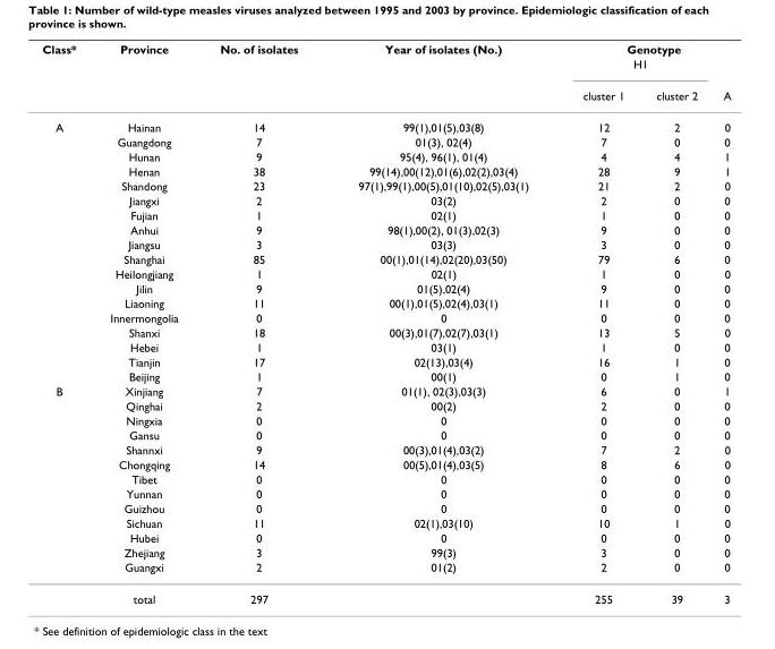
<table><thead><tr><td rowspan="3">Class*</td><td rowspan="3">Province</td><td rowspan="3">No. of isolates</td><td rowspan="3">Year of isolates (No.)</td><td colspan="3">Genotype</td></tr><tr><td colspan="2">H1</td><td rowspan="2">A</td></tr><tr><td>cluster 1</td><td>cluster 2</td></tr></thead><tbody><tr><td rowspan="18">A</td><td>Hainan</td><td>14</td><td>99(1),01(5),03(8)</td><td>12</td><td>2</td><td>0</td></tr><tr><td>Guangdong</td><td>7</td><td>01(3), 02(4)</td><td>7</td><td>0</td><td>0</td></tr><tr><td>Hunan</td><td>9</td><td>95(4), 96(1), 01(4)</td><td>4</td><td>4</td><td>1</td></tr><tr><td>Henan</td><td>38</td><td>99(14),00(12),01(6),02(2),03(4)</td><td>28</td><td>9</td><td>1</td></tr><tr><td>Shandong</td><td>23</td><td>97(1),99(1),00(5),01(10),02(5),03(1)</td><td>21</td><td>2</td><td>0</td></tr><tr><td>Jiangxi</td><td>2</td><td>03(2)</td><td>2</td><td>0</td><td>0</td></tr><tr><td>Fujian</td><td>1</td><td>02(1)</td><td>1</td><td>0</td><td>0</td></tr><tr><td>Anhui</td><td>9</td><td>98(1),00(2), 01(3),02(3)</td><td>9</td><td>0</td><td>0</td></tr><tr><td>Jiangsu</td><td>3</td><td>03(3)</td><td>3</td><td>0</td><td>0</td></tr><tr><td>Shanghai</td><td>85</td><td>00(1),01(14),02(20),03(50)</td><td>79</td><td>6</td><td>0</td></tr><tr><td>Heilongjiang</td><td>1</td><td>02(1)</td><td>1</td><td>0</td><td>0</td></tr><tr><td>Jilin</td><td>9</td><td>01(5),02(4)</td><td>9</td><td>0</td><td>0</td></tr><tr><td>Liaoning</td><td>11</td><td>00(1),01(5),02(4),03(1)</td><td>11</td><td>0</td><td>0</td></tr><tr><td>Innermongolia</td><td>0</td><td>0</td><td>0</td><td>0</td><td>0</td></tr><tr><td>Shanxi</td><td>18</td><td>00(3),01(7),02(7),03(1)</td><td>13</td><td>5</td><td>0</td></tr><tr><td>Hebei</td><td>1</td><td>03(1)</td><td>1</td><td>0</td><td>0</td></tr><tr><td>Tianjin</td><td>17</td><td>02(13),03(4)</td><td>16</td><td>1</td><td>0</td></tr><tr><td>Beijing</td><td>1</td><td>00(1)</td><td>0</td><td>1</td><td>0</td></tr><tr><td rowspan="14">B</td><td>Xinjiang</td><td>7</td><td>01(1), 02(3),03(3)</td><td>6</td><td>0</td><td>1</td></tr><tr><td>Qinghai</td><td>2</td><td>00(2)</td><td>2</td><td>0</td><td>0</td></tr><tr><td>Ningxia</td><td>0</td><td>0</td><td>0</td><td>0</td><td>0</td></tr><tr><td>Gansu</td><td>0</td><td>0</td><td>0</td><td>0</td><td>0</td></tr><tr><td>Shannxi</td><td>9</td><td>00(3),01(4),03(2)</td><td>7</td><td>2</td><td>0</td></tr><tr><td>Chongqing</td><td>14</td><td>00(5),01(4),03(5)</td><td>8</td><td>6</td><td>0</td></tr><tr><td>Tibet</td><td>0</td><td>0</td><td>0</td><td>0</td><td>0</td></tr><tr><td>Yunnan</td><td>0</td><td>0</td><td>0</td><td>0</td><td>0</td></tr><tr><td>Guizhou</td><td>0</td><td>0</td><td>0</td><td>0</td><td>0</td></tr><tr><td>Sichuan</td><td>11</td><td>02(1),03(10)</td><td>10</td><td>1</td><td>0</td></tr><tr><td>Hubei</td><td>0</td><td>0</td><td>0</td><td>0</td><td>0</td></tr><tr><td>Zhejiang</td><td>3</td><td>99(3)</td><td>3</td><td>0</td><td>0</td></tr><tr><td>Guangxi</td><td>2</td><td>01(2)</td><td>2</td><td>0</td><td>0</td></tr><tr><td>total</td><td>297</td><td></td><td>255</td><td>39</td><td>3</td></tr></tbody></table>